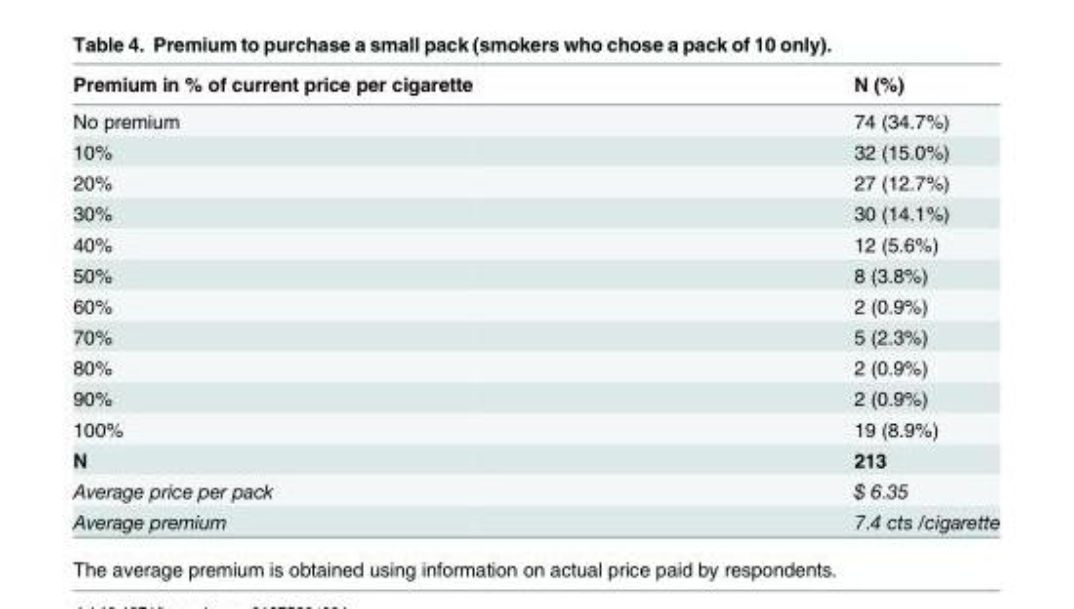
<table><thead><tr><td>Premium in % of current price per cigarette</td><td>N (%)</td></tr></thead><tbody><tr><td>No premium</td><td>74 (34.7%)</td></tr><tr><td>10%</td><td>32 (15.0%)</td></tr><tr><td>20%</td><td>27 (12.7%)</td></tr><tr><td>30%</td><td>30 (14.1%)</td></tr><tr><td>40%</td><td>12 (5.6%)</td></tr><tr><td>50%</td><td>8 (3.8%)</td></tr><tr><td>60%</td><td>2 (0.9%)</td></tr><tr><td>70%</td><td>5 (2.3%)</td></tr><tr><td>80%</td><td>2 (0.9%)</td></tr><tr><td>90%</td><td>2 (0.9%)</td></tr><tr><td>100%</td><td>19 (8.9%)</td></tr><tr><td>N</td><td>213</td></tr><tr><td>Average price per pack</td><td>$ 6.35</td></tr><tr><td>Average premium</td><td>7.4 cts /cigarette</td></tr></tbody></table>